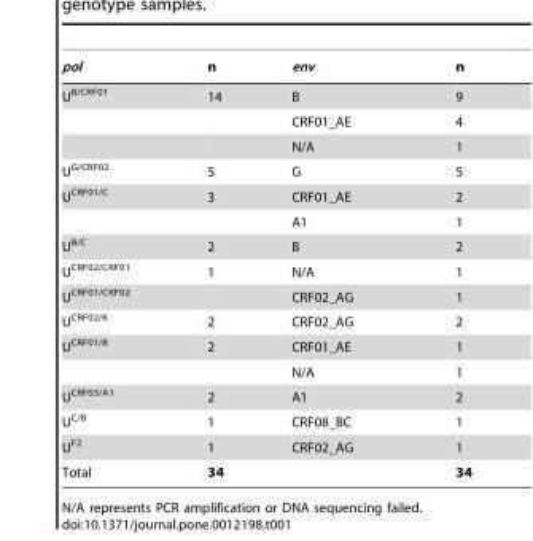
<table><thead><tr><td>pol</td><td>n</td><td>env</td><td>n</td></tr></thead><tbody><tr><td rowspan="3">U<sup>B/CRF01</sup></td><td>14</td><td>B</td><td>9</td></tr><tr><td></td><td>CRF01_AE</td><td>4</td></tr><tr><td></td><td>N/A</td><td>1</td></tr><tr><td>U<sup>G/CRF02</sup></td><td>5</td><td>G</td><td>5</td></tr><tr><td rowspan="2">U<sup>CRF01/C</sup></td><td>3</td><td>CRF01_AE</td><td>2</td></tr><tr><td></td><td>A1</td><td>1</td></tr><tr><td>U<sup>B/C</sup></td><td>2</td><td>B</td><td>2</td></tr><tr><td>U<sup>CRF02/CRF01</sup></td><td>1</td><td>N/A</td><td>1</td></tr><tr><td>U<sup>CRF01/CRF02</sup></td><td></td><td>CRF02_AG</td><td>1</td></tr><tr><td>U<sup>CRF02/K</sup></td><td>2</td><td>CRF02_AG</td><td>2</td></tr><tr><td rowspan="2">U<sup>CRF01/B</sup></td><td>2</td><td>CRF01_AE</td><td>1</td></tr><tr><td></td><td>N/A</td><td>1</td></tr><tr><td>U<sup>CRF03/A1</sup></td><td>2</td><td>A1</td><td>2</td></tr><tr><td>U<sup>C/B</sup></td><td>1</td><td>CRF08_BC</td><td>1</td></tr><tr><td>U<sup>F2</sup></td><td>1</td><td>CRF02_AG</td><td>1</td></tr><tr><td>Total</td><td>34</td><td></td><td>34</td></tr></tbody></table>